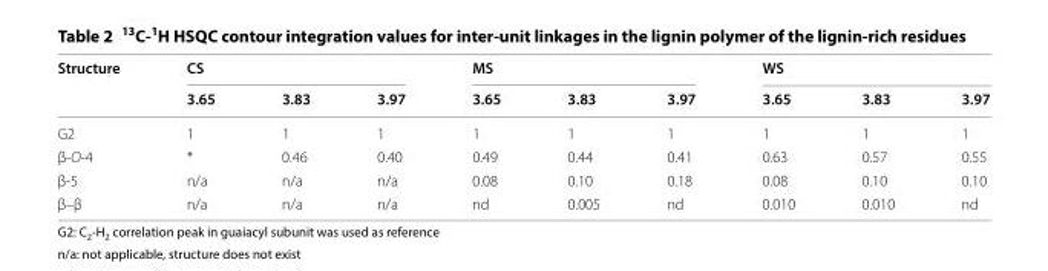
<table><thead><tr><td rowspan="2">Structure</td><td colspan="3">CS</td><td colspan="3">MS</td><td colspan="3">WS</td></tr><tr><td>3.65</td><td>3.83</td><td>3.97</td><td>3.65</td><td>3.83</td><td>3.97</td><td>3.65</td><td>3.83</td><td>3.97</td></tr></thead><tbody><tr><td>G2</td><td>1</td><td>1</td><td>1</td><td>1</td><td>1</td><td>1</td><td>1</td><td>1</td><td>1</td></tr><tr><td>β-O-4</td><td>*</td><td>0.46</td><td>0.40</td><td>0.49</td><td>0.44</td><td>0.41</td><td>0.63</td><td>0.57</td><td>0.55</td></tr><tr><td>β-5</td><td>n/a</td><td>n/a</td><td>n/a</td><td>0.08</td><td>0.10</td><td>0.18</td><td>0.08</td><td>0.10</td><td>0.10</td></tr><tr><td>β–β</td><td>n/a</td><td>n/a</td><td>n/a</td><td>nd</td><td>0.005</td><td>nd</td><td>0.010</td><td>0.010</td><td>nd</td></tr></tbody></table>